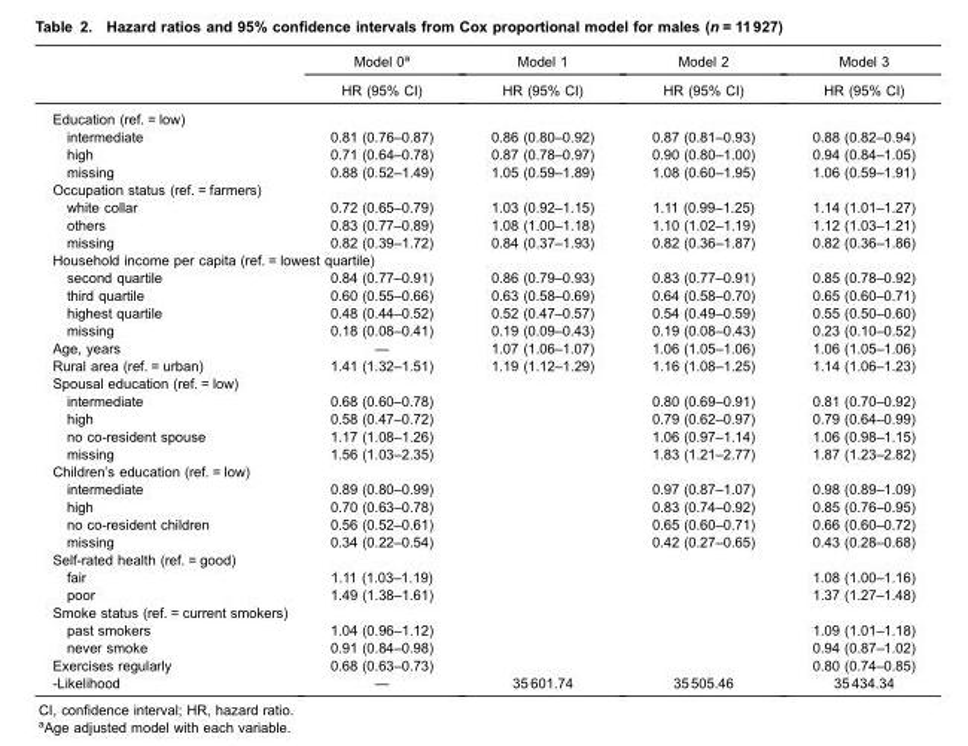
<table><thead><tr><td rowspan="2"></td><td rowspan="2">Model 0a HR (95% CI)</td><td rowspan="2">Model 1 HR (95% CI)</td><td rowspan="2">Model 2 HR (95% CI)</td><td rowspan="2">Model 3 HR (95% CI)</td></tr><tr></tr></thead><tbody><tr><td colspan="5">Education (ref. = low)</td></tr><tr><td>intermediate</td><td>0.81 (0.76–0.87)</td><td>0.86 (0.80–0.92)</td><td>0.87 (0.81–0.93)</td><td>0.88 (0.82–0.94)</td></tr><tr><td>high</td><td>0.71 (0.64–0.78)</td><td>0.87 (0.78–0.97)</td><td>0.90 (0.80–1.00)</td><td>0.94 (0.84–1.05)</td></tr><tr><td>missing</td><td>0.88 (0.52–1.49)</td><td>1.05 (0.59–1.89)</td><td>1.08 (0.60–1.95)</td><td>1.06 (0.59–1.91)</td></tr><tr><td colspan="5">Occupation status (ref. = farmers)</td></tr><tr><td>white collar</td><td>0.72 (0.65–0.79)</td><td>1.03 (0.92–1.15)</td><td>1.11 (0.99–1.25)</td><td>1.14 (1.01–1.27)</td></tr><tr><td>others</td><td>0.83 (0.77–0.89)</td><td>1.08 (1.00–1.18)</td><td>1.10 (1.02–1.19)</td><td>1.12 (1.03–1.21)</td></tr><tr><td>missing</td><td>0.82 (0.39–1.72)</td><td>0.84 (0.37–1.93)</td><td>0.82 (0.36–1.87)</td><td>0.82 (0.36–1.86)</td></tr><tr><td colspan="5">Household income per capita (ref. = lowest quartile)</td></tr><tr><td>second quartile</td><td>0.84 (0.77–0.91)</td><td>0.86 (0.79–0.93)</td><td>0.83 (0.77–0.91)</td><td>0.85 (0.78–0.92)</td></tr><tr><td>third quartile</td><td>0.60 (0.55–0.66)</td><td>0.63 (0.58–0.69)</td><td>0.64 (0.58–0.70)</td><td>0.65 (0.60–0.71)</td></tr><tr><td>highest quartile</td><td>0.48 (0.44–0.52)</td><td>0.52 (0.47–0.57)</td><td>0.54 (0.49–0.59)</td><td>0.55 (0.50–0.60)</td></tr><tr><td>missing</td><td>0.18 (0.08–0.41)</td><td>0.19 (0.09–0.43)</td><td>0.19 (0.08–0.43)</td><td>0.23 (0.10–0.52)</td></tr><tr><td>Age, years</td><td>—</td><td>1.07 (1.06–1.07)</td><td>1.06 (1.05–1.06)</td><td>1.06 (1.05–1.06)</td></tr><tr><td>Rural area (ref. = urban)</td><td>1.41 (1.32–1.51)</td><td>1.19 (1.12–1.29)</td><td>1.16 (1.08–1.25)</td><td>1.14 (1.06–1.23)</td></tr><tr><td colspan="5">Spousal education (ref. = low)</td></tr><tr><td>intermediate</td><td>0.68 (0.60–0.78)</td><td></td><td>0.80 (0.69–0.91)</td><td>0.81 (0.70–0.92)</td></tr><tr><td>high</td><td>0.58 (0.47–0.72)</td><td></td><td>0.79 (0.62–0.97)</td><td>0.79 (0.64–0.99)</td></tr><tr><td>no co-resident spouse</td><td>1.17 (1.08–1.26)</td><td></td><td>1.06 (0.97–1.14)</td><td>1.06 (0.98–1.15)</td></tr><tr><td>missing</td><td>1.56 (1.03–2.35)</td><td></td><td>1.83 (1.21–2.77)</td><td>1.87 (1.23–2.82)</td></tr><tr><td colspan="5">Children’s education (ref. = low)</td></tr><tr><td>intermediate</td><td>0.89 (0.80–0.99)</td><td></td><td>0.97 (0.87–1.07)</td><td>0.98 (0.89–1.09)</td></tr><tr><td>high</td><td>0.70 (0.63–0.78)</td><td></td><td>0.83 (0.74–0.92)</td><td>0.85 (0.76–0.95)</td></tr><tr><td>no co-resident children</td><td>0.56 (0.52–0.61)</td><td></td><td>0.65 (0.60–0.71)</td><td>0.66 (0.60–0.72)</td></tr><tr><td>missing</td><td>0.34 (0.22–0.54)</td><td></td><td>0.42 (0.27–0.65)</td><td>0.43 (0.28–0.68)</td></tr><tr><td colspan="5">Self-rated health (ref. = good)</td></tr><tr><td>fair</td><td>1.11 (1.03–1.19)</td><td></td><td></td><td>1.08 (1.00–1.16)</td></tr><tr><td>poor</td><td>1.49 (1.38–1.61)</td><td></td><td></td><td>1.37 (1.27–1.48)</td></tr><tr><td colspan="5">Smoke status (ref. = current smokers)</td></tr><tr><td>past smokers</td><td>1.04 (0.96–1.12)</td><td></td><td></td><td>1.09 (1.01–1.18)</td></tr><tr><td>never smoke</td><td>0.91 (0.84–0.98)</td><td></td><td></td><td>0.94 (0.87–1.02)</td></tr><tr><td>Exercises regularly</td><td>0.68 (0.63–0.73)</td><td></td><td></td><td>0.80 (0.74–0.85)</td></tr><tr><td>-Likelihood</td><td>—</td><td>35 601.74</td><td>35 505.46</td><td>35 434.34</td></tr></tbody></table>